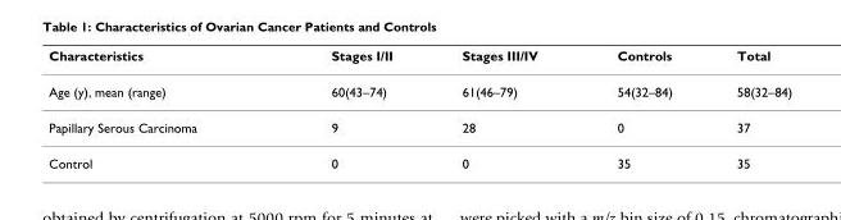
<table><thead><tr><td>Characteristics</td><td>Stages I/II</td><td>Stages III/IV</td><td>Controls</td><td>Total</td></tr></thead><tbody><tr><td>Age (y), mean (range)</td><td>60(43–74)</td><td>61(46–79)</td><td>54(32–84)</td><td>58(32–84)</td></tr><tr><td>Papillary Serous Carcinoma</td><td>9</td><td>28</td><td>0</td><td>37</td></tr><tr><td>Control</td><td>0</td><td>0</td><td>35</td><td>35</td></tr></tbody></table>